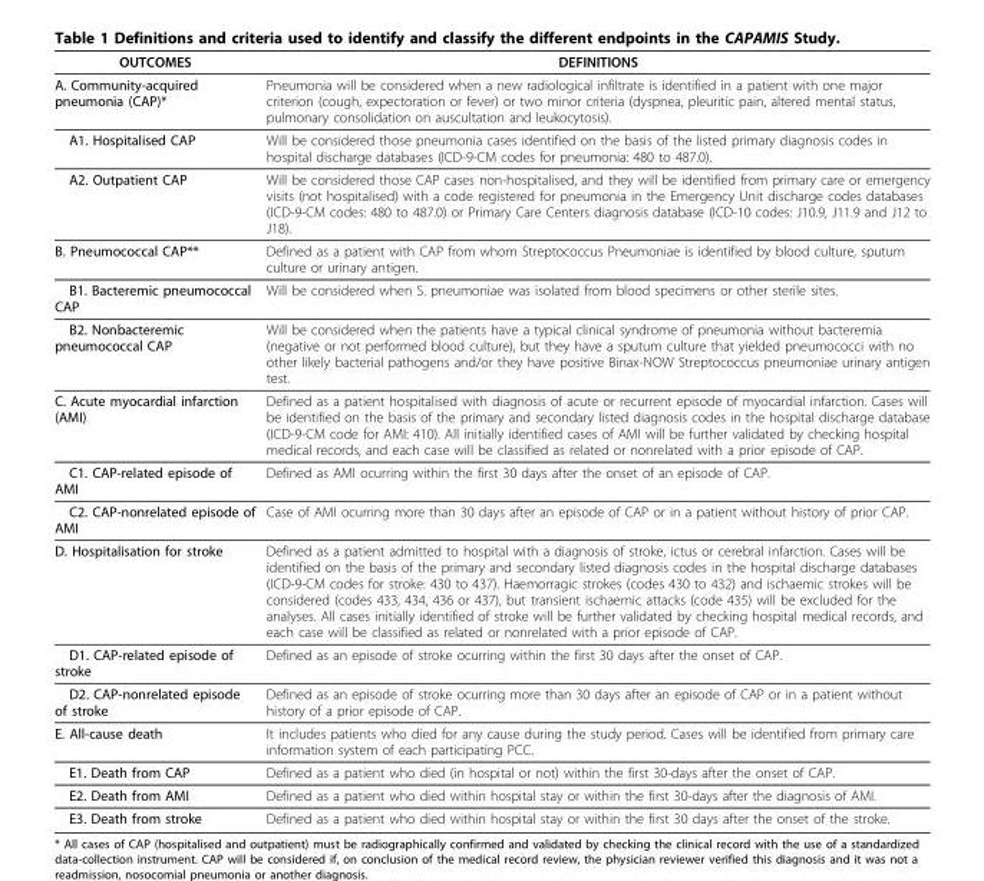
<table><thead><tr><td>OUTCOMES</td><td>DEFINITIONS</td></tr></thead><tbody><tr><td>A. Community-acquired pneumonia (CAP)*</td><td>Pneumonia will be considered when a new radiological infiltrate is identified in a patient with one major criterion (cough, expectoration or fever) or two minor criteria (dyspnea, pleuritic pain, altered mental status, pulmonary consolidation on auscultation and leukocytosis).</td></tr><tr><td>A1. Hospitalised CAP</td><td>Will be considered those pneumonia cases identified on the basis of the listed primary diagnosis codes in hospital discharge databases (ICD-9-CM codes for pneumonia: 480 to 487.0).</td></tr><tr><td>A2. Outpatient CAP</td><td>Will be considered those CAP cases non-hospitalised, and they will be identified from primary care or emergency visits (not hospitalised) with a code registered for pneumonia in the Emergency Unit discharge codes databases (ICD-9-CM codes: 480 to 487.0) or Primary Care Centers diagnosis database (ICD-10 codes: J10.9, J11.9 and J12 to J18).</td></tr><tr><td>B. Pneumococcal CAP**</td><td>Defined as a patient with CAP from whom Streptococcus Pneumoniae is identified by blood culture, sputum culture or urinary antigen.</td></tr><tr><td>B1. Bacteremic pneumococcal CAP</td><td>Will be considered when S. pneumoniae was isolated from blood specimens or other sterile sites.</td></tr><tr><td>B2. Nonbacteremic pneumococcal CAP</td><td>Will be considered when the patients have a typical clinical syndrome of pneumonia without bacteremia (negative or not performed blood culture), but they have a sputum culture that yielded pneumococci with no other likely bacterial pathogens and/or they have positive Binax-NOW Streptococcus pneumoniae urinary antigen test.</td></tr><tr><td>C. Acute myocardial infarction (AMI)</td><td>Defined as a patient hospitalised with diagnosis of acute or recurrent episode of myocardial infarction. Cases will be identified on the basis of the primary and secondary listed diagnosis codes in the hospital discharge database (ICD-9-CM code for AMI: 410). All initially identified cases of AMI will be further validated by checking hospital medical records, and each case will be classified as related or nonrelated with a prior episode of CAP.</td></tr><tr><td>C1. CAP-related episode of AMI</td><td>Defined as AMI ocurring within the first 30 days after the onset of an episode of CAP.</td></tr><tr><td>C2. CAP-nonrelated episode of AMI</td><td>Case of AMI ocurring more than 30 days after an episode of CAP or in a patient without history of prior CAP.</td></tr><tr><td>D. Hospitalisation for stroke</td><td>Defined as a patient admitted to hospital with a diagnosis of stroke, ictus or cerebral infarction. Cases will be identified on the basis of the primary and secondary listed diagnosis codes in the hospital discharge databases (ICD-9-CM codes for stroke: 430 to 437). Haemorragic strokes (codes 430 to 432) and ischaemic strokes will be considered (codes 433, 434, 436 or 437), but transient ischaemic attacks (code 435) will be excluded for the analyses. All cases initially identified of stroke will be further validated by checking hospital medical records, and each case will be classified as related or nonrelated with a prior episode of CAP.</td></tr><tr><td>D1. CAP-related episode of stroke</td><td>Defined as an episode of stroke ocurring within the first 30 days after the onset of CAP.</td></tr><tr><td>D2. CAP-nonrelated episode of stroke</td><td>Defined as an episode of stroke ocurring more than 30 days after an episode of CAP or in a patient without history of a prior episode of CAP.</td></tr><tr><td>E. All-cause death</td><td>It includes patients who died for any cause during the study period. Cases will be identified from primary care information system of each participating PCC.</td></tr><tr><td>E1. Death from CAP</td><td>Defined as a patient who died (in hospital or not) within the first 30-days after the onset of CAP.</td></tr><tr><td>E2. Death from AMI</td><td>Defined as a patient who died within hospital stay or within the first 30-days after the diagnosis of AMI.</td></tr><tr><td>E3. Death from stroke</td><td>Defined as a patient who died within hospital stay or within the first 30 days after the onset of the stroke.</td></tr></tbody></table>